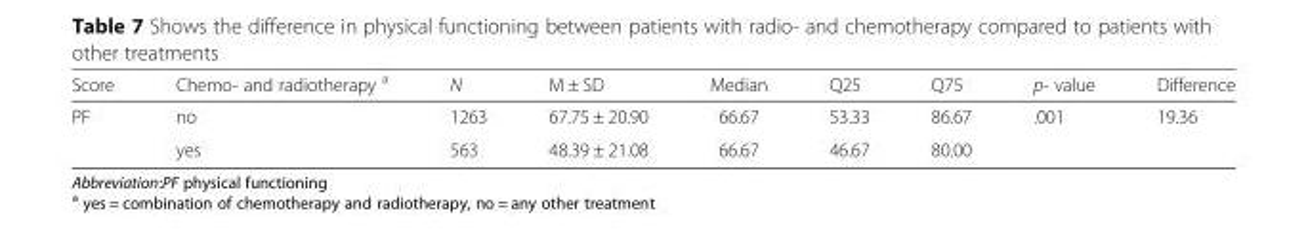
<table><thead><tr><td>Score</td><td>Chemo- and radiotherapy <sup>a</sup></td><td>N</td><td>M ± SD</td><td>Median</td><td>Q25</td><td>Q75</td><td>p- value</td><td>Difference</td></tr></thead><tbody><tr><td rowspan="2">PF</td><td>no</td><td>1263</td><td>67.75 ± 20.90</td><td>66.67</td><td>53.33</td><td>86.67</td><td rowspan="2">.001</td><td rowspan="2">19.36</td></tr><tr><td>yes</td><td>563</td><td>48.39 ± 21.08</td><td>66.67</td><td>46.67</td><td>80.00</td></tr></tbody></table>